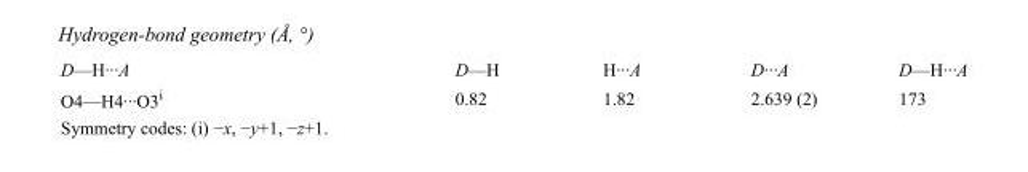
<table><tbody><tr><td>D—H···A</td><td>D—H</td><td>H···A</td><td>D···A</td><td>D—H···A</td></tr><tr><td>O4—H4···O3<sup>i</sup></td><td>0.82</td><td>1.82</td><td>2.639 (2)</td><td>173</td></tr></tbody></table>